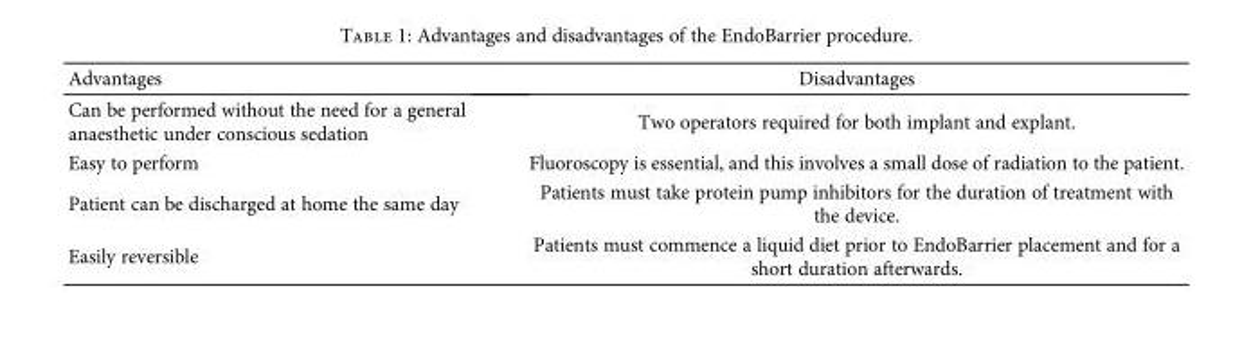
<table><thead><tr><td>Advantages</td><td>Disadvantages</td></tr></thead><tbody><tr><td>Can be performed without the need for a general anaesthetic under conscious sedation</td><td>Two operators required for both implant and explant.</td></tr><tr><td>Easy to perform</td><td>Fluoroscopy is essential, and this involves a small dose of radiation to the patient.</td></tr><tr><td>Patient can be discharged at home the same day</td><td>Patients must take protein pump inhibitors for the duration of treatment with the device.</td></tr><tr><td>Easily reversible</td><td>Patients must commence a liquid diet prior to EndoBarrier placement and for a short duration afterwards.</td></tr></tbody></table>